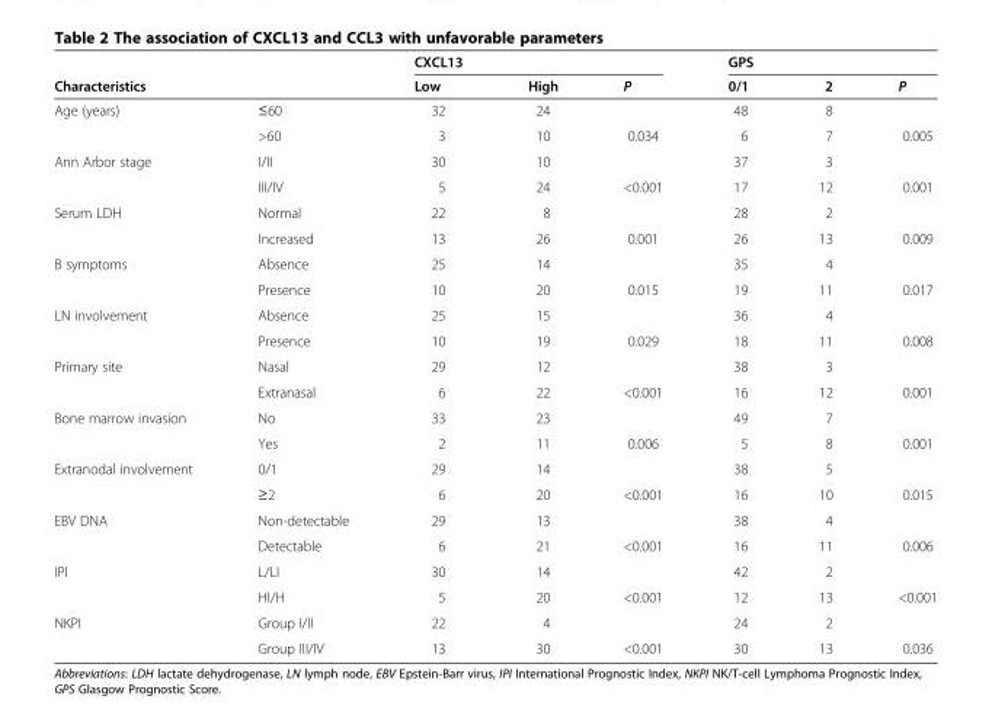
<table><thead><tr><td></td><td></td><td>CXCL13</td><td></td><td></td><td>GPS</td><td></td><td></td></tr></thead><tbody><tr><td>Characteristics</td><td></td><td>Low</td><td>High</td><td>P</td><td>0/1</td><td>2</td><td>P</td></tr><tr><td rowspan="2">Age (years)</td><td>≤60</td><td>32</td><td>24</td><td></td><td>48</td><td>8</td><td></td></tr><tr><td>&gt;60</td><td>3</td><td>10</td><td>0.034</td><td>6</td><td>7</td><td>0.005</td></tr><tr><td rowspan="2">Ann Arbor stage</td><td>I/II</td><td>30</td><td>10</td><td></td><td>37</td><td>3</td><td></td></tr><tr><td>III/IV</td><td>5</td><td>24</td><td>&lt;0.001</td><td>17</td><td>12</td><td>0.001</td></tr><tr><td rowspan="2">Serum LDH</td><td>Normal</td><td>22</td><td>8</td><td></td><td>28</td><td>2</td><td></td></tr><tr><td>Increased</td><td>13</td><td>26</td><td>0.001</td><td>26</td><td>13</td><td>0.009</td></tr><tr><td rowspan="2">B symptoms</td><td>Absence</td><td>25</td><td>14</td><td></td><td>35</td><td>4</td><td></td></tr><tr><td>Presence</td><td>10</td><td>20</td><td>0.015</td><td>19</td><td>11</td><td>0.017</td></tr><tr><td rowspan="2">LN involvement</td><td>Absence</td><td>25</td><td>15</td><td></td><td>36</td><td>4</td><td></td></tr><tr><td>Presence</td><td>10</td><td>19</td><td>0.029</td><td>18</td><td>11</td><td>0.008</td></tr><tr><td rowspan="2">Primary site</td><td>Nasal</td><td>29</td><td>12</td><td></td><td>38</td><td>3</td><td></td></tr><tr><td>Extranasal</td><td>6</td><td>22</td><td>&lt;0.001</td><td>16</td><td>12</td><td>0.001</td></tr><tr><td rowspan="2">Bone marrow invasion</td><td>No</td><td>33</td><td>23</td><td></td><td>49</td><td>7</td><td></td></tr><tr><td>Yes</td><td>2</td><td>11</td><td>0.006</td><td>5</td><td>8</td><td>0.001</td></tr><tr><td rowspan="2">Extranodal involvement</td><td>0/1</td><td>29</td><td>14</td><td></td><td>38</td><td>5</td><td></td></tr><tr><td>≥2</td><td>6</td><td>20</td><td>&lt;0.001</td><td>16</td><td>10</td><td>0.015</td></tr><tr><td rowspan="2">EBV DNA</td><td>Non-detectable</td><td>29</td><td>13</td><td></td><td>38</td><td>4</td><td></td></tr><tr><td>Detectable</td><td>6</td><td>21</td><td>&lt;0.001</td><td>16</td><td>11</td><td>0.006</td></tr><tr><td rowspan="2">IPI</td><td>L/LI</td><td>30</td><td>14</td><td></td><td>42</td><td>2</td><td></td></tr><tr><td>HI/H</td><td>5</td><td>20</td><td>&lt;0.001</td><td>12</td><td>13</td><td>&lt;0.001</td></tr><tr><td rowspan="2">NKPI</td><td>Group I/II</td><td>22</td><td>4</td><td></td><td>24</td><td>2</td><td></td></tr><tr><td>Group III/IV</td><td>13</td><td>30</td><td>&lt;0.001</td><td>30</td><td>13</td><td>0.036</td></tr></tbody></table>